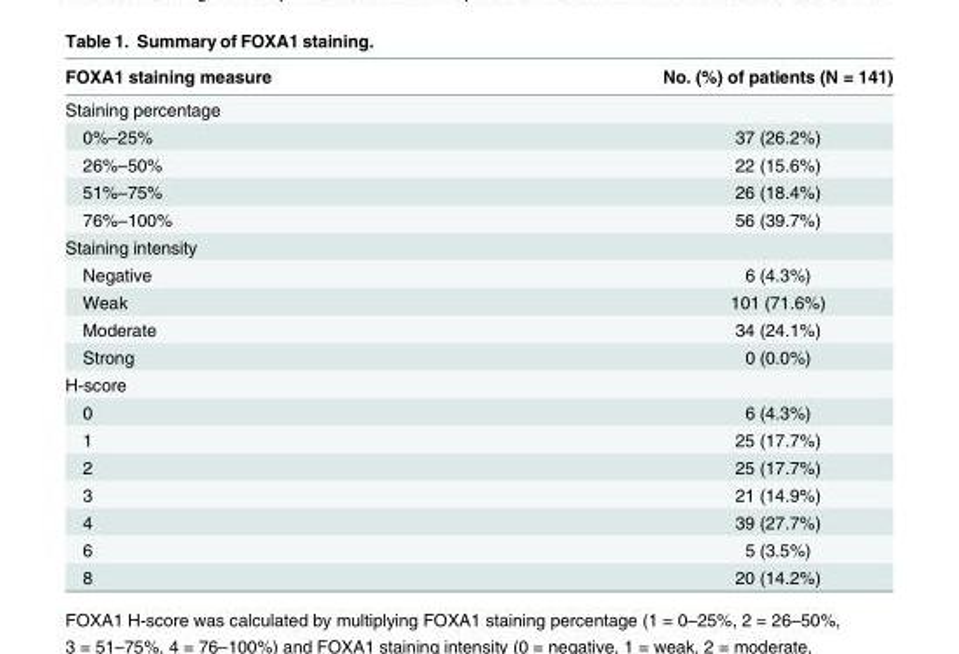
<table><thead><tr><td>FOXA1 staining measure</td><td>No. (%) of patients (N = 141)</td></tr></thead><tbody><tr><td colspan="2">Staining percentage</td></tr><tr><td>0%–25%</td><td>37 (26.2%)</td></tr><tr><td>26%–50%</td><td>22 (15.6%)</td></tr><tr><td>51%–75%</td><td>26 (18.4%)</td></tr><tr><td>76%–100%</td><td>56 (39.7%)</td></tr><tr><td colspan="2">Staining intensity</td></tr><tr><td>Negative</td><td>6 (4.3%)</td></tr><tr><td>Weak</td><td>101 (71.6%)</td></tr><tr><td>Moderate</td><td>34 (24.1%)</td></tr><tr><td>Strong</td><td>0 (0.0%)</td></tr><tr><td colspan="2">H-score</td></tr><tr><td>0</td><td>6 (4.3%)</td></tr><tr><td>1</td><td>25 (17.7%)</td></tr><tr><td>2</td><td>25 (17.7%)</td></tr><tr><td>3</td><td>21 (14.9%)</td></tr><tr><td>4</td><td>39 (27.7%)</td></tr><tr><td>6</td><td>5 (3.5%)</td></tr><tr><td>8</td><td>20 (14.2%)</td></tr></tbody></table>